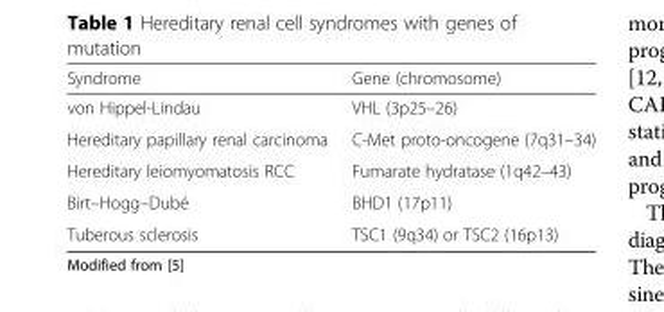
<table><thead><tr><td>Syndrome</td><td>Gene (chromosome)</td></tr></thead><tbody><tr><td>von Hippel-Lindau</td><td>VHL (3p25–26)</td></tr><tr><td>Hereditary papillary renal carcinoma</td><td>C-Met proto-oncogene (7q31–34)</td></tr><tr><td>Hereditary leiomyomatosis RCC</td><td>Fumarate hydratase (1q42–43)</td></tr><tr><td>Birt–Hogg–Dubé</td><td>BHD1 (17p11)</td></tr><tr><td>Tuberous sclerosis</td><td>TSC1 (9q34) or TSC2 (16p13)</td></tr></tbody></table>